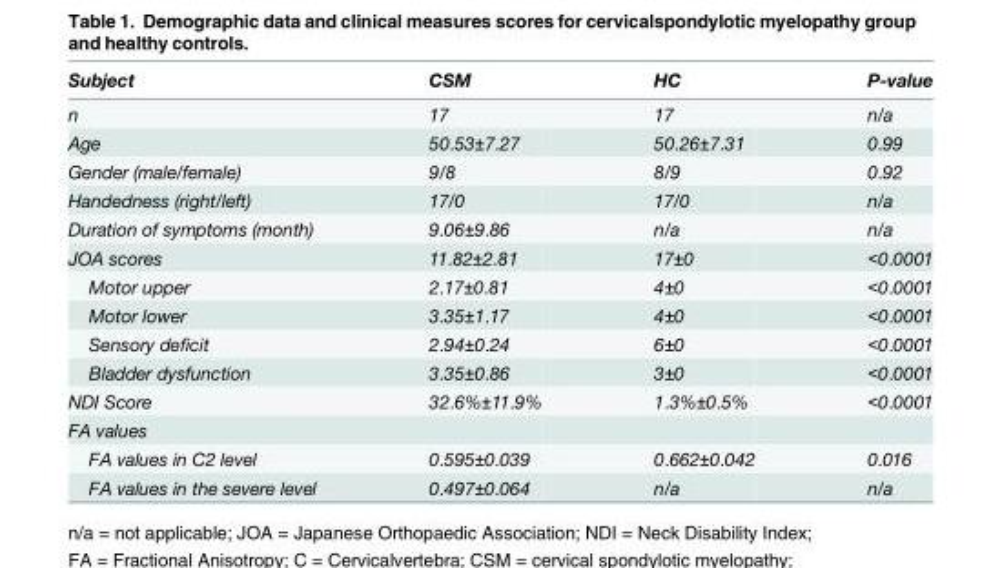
<table><thead><tr><td>Subject</td><td>CSM</td><td>HC</td><td>P-value</td></tr></thead><tbody><tr><td>n</td><td>17</td><td>17</td><td>n/a</td></tr><tr><td>Age</td><td>50.53±7.27</td><td>50.26±7.31</td><td>0.99</td></tr><tr><td>Gender (male/female)</td><td>9/8</td><td>8/9</td><td>0.92</td></tr><tr><td>Handedness (right/left)</td><td>17/0</td><td>17/0</td><td>n/a</td></tr><tr><td>Duration of symptoms (month)</td><td>9.06±9.86</td><td>n/a</td><td>n/a</td></tr><tr><td>JOA scores</td><td>11.82±2.81</td><td>17±0</td><td>&lt;0.0001</td></tr><tr><td>Motor upper</td><td>2.17±0.81</td><td>4±0</td><td>&lt;0.0001</td></tr><tr><td>Motor lower</td><td>3.35±1.17</td><td>4±0</td><td>&lt;0.0001</td></tr><tr><td>Sensory deficit</td><td>2.94±0.24</td><td>6±0</td><td>&lt;0.0001</td></tr><tr><td>Bladder dysfunction</td><td>3.35±0.86</td><td>3±0</td><td>&lt;0.0001</td></tr><tr><td>NDI Score</td><td>32.6%±11.9%</td><td>1.3%±0.5%</td><td>&lt;0.0001</td></tr><tr><td colspan="4">FA values</td></tr><tr><td>FA values in C2 level</td><td>0.595±0.039</td><td>0.662±0.042</td><td>0.016</td></tr><tr><td>FA values in the severe level</td><td>0.497±0.064</td><td>n/a</td><td>n/a</td></tr></tbody></table>